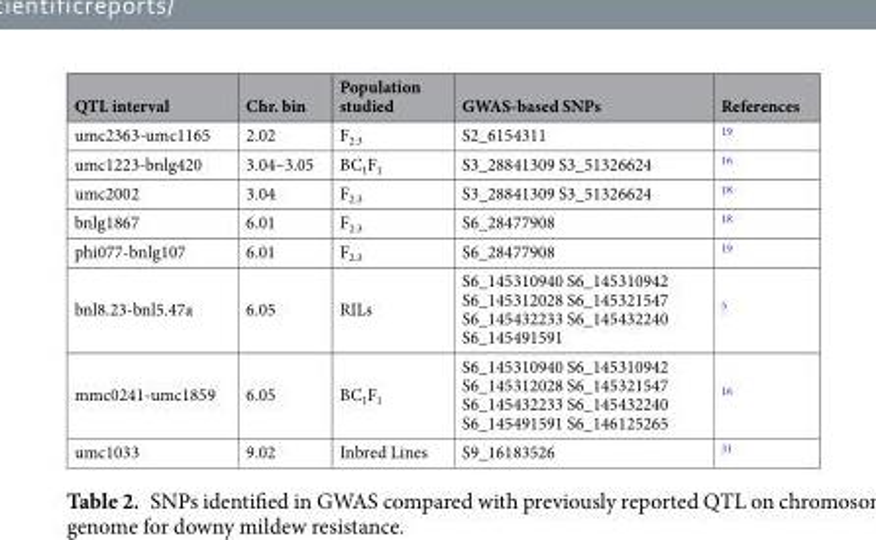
<table><thead><tr><td>QTL interval</td><td>Chr. bin</td><td>Population studied</td><td>GWAS-based SNPs</td><td>References</td></tr></thead><tbody><tr><td>umc2363-umc1165</td><td>2.02</td><td>F<sub>2:3</sub></td><td>S2_6154311</td><td><sup>19</sup></td></tr><tr><td>umc1223-bnlg420</td><td>3.04–3.05</td><td>BC<sub>1</sub>F<sub>1</sub></td><td>S3_28841309 S3_51326624</td><td><sup>16</sup></td></tr><tr><td>umc2002</td><td>3.04</td><td>F<sub>2:3</sub></td><td>S3_28841309 S3_51326624</td><td><sup>18</sup></td></tr><tr><td>bnlg1867</td><td>6.01</td><td>F<sub>2:3</sub></td><td>S6_28477908</td><td><sup>18</sup></td></tr><tr><td>phi077-bnlg107</td><td>6.01</td><td>F<sub>2:3</sub></td><td>S6_28477908</td><td><sup>19</sup></td></tr><tr><td>bnl8.23-bnl5.47a</td><td>6.05</td><td>RILs</td><td>S6_145310940 S6_145310942 S6_145312028 S6_145321547 S6_145432233 S6_145432240 S6_145491591</td><td><sup>5</sup></td></tr><tr><td>mmc0241-umc1859</td><td>6.05</td><td>BC<sub>1</sub>F<sub>1</sub></td><td>S6_145310940 S6_145310942 S6_145312028 S6_145321547 S6_145432233 S6_145432240 S6_145491591 S6_146125265</td><td><sup>16</sup></td></tr><tr><td>umc1033</td><td>9.02</td><td>Inbred Lines</td><td>S9_16183526</td><td><sup>31</sup></td></tr></tbody></table>